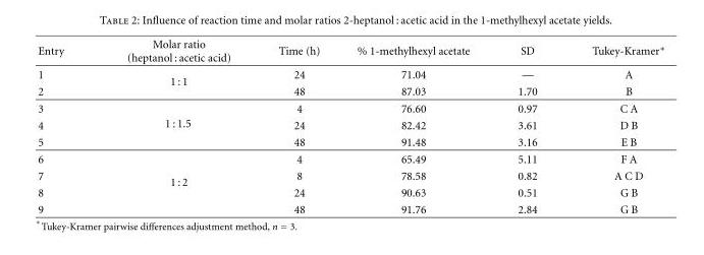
<table><thead><tr><td>Entry</td><td>Molar ratio (heptanol : acetic acid)</td><td>Time (h)</td><td>% 1-methylhexyl acetate</td><td>SD</td><td>Tukey-Kramer∗</td></tr></thead><tbody><tr><td>1</td><td rowspan="2">1 : 1</td><td>24</td><td>71.04</td><td>—</td><td>A</td></tr><tr><td>2</td><td>48</td><td>87.03</td><td>1.70</td><td>B</td></tr><tr><td>3</td><td rowspan="3">1 : 1.5</td><td>4</td><td>76.60</td><td>0.97</td><td>C A</td></tr><tr><td>4</td><td>24</td><td>82.42</td><td>3.61</td><td>D B</td></tr><tr><td>5</td><td>48</td><td>91.48</td><td>3.16</td><td>E B</td></tr><tr><td>6</td><td rowspan="4">1 : 2</td><td>4</td><td>65.49</td><td>5.11</td><td>F A</td></tr><tr><td>7</td><td>8</td><td>78.58</td><td>0.82</td><td>A C D</td></tr><tr><td>8</td><td>24</td><td>90.63</td><td>0.51</td><td>G B</td></tr><tr><td>9</td><td>48</td><td>91.76</td><td>2.84</td><td>G B</td></tr></tbody></table>